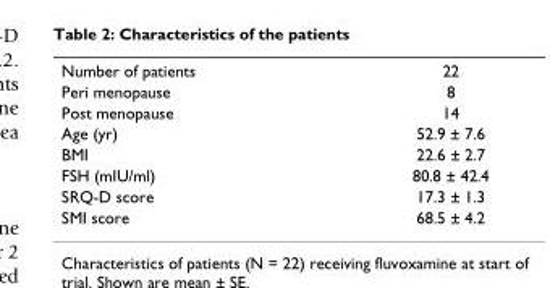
<table><tbody><tr><td>Number of patients</td><td>22</td></tr><tr><td>Peri menopause</td><td>8</td></tr><tr><td>Post menopause</td><td>14</td></tr><tr><td>Age (yr)</td><td>52.9 ± 7.6</td></tr><tr><td>BMI</td><td>22.6 ± 2.7</td></tr><tr><td>FSH (mIU/ml)</td><td>80.8 ± 42.4</td></tr><tr><td>SRQ-D score</td><td>17.3 ± 1.3</td></tr><tr><td>SMI score</td><td>68.5 ± 4.2</td></tr></tbody></table>